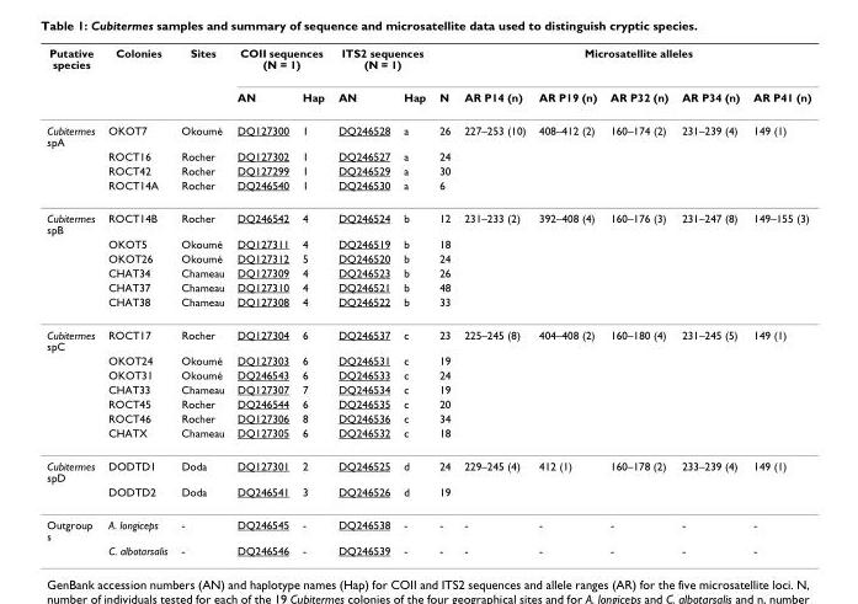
<table><thead><tr><td rowspan="2">Putative species</td><td rowspan="2">Colonies</td><td rowspan="2">Sites</td><td colspan="2">COII sequences (N = 1)</td><td colspan="2">ITS2 sequences (N = 1)</td><td rowspan="2">N</td><td colspan="5">Microsatellite alleles</td></tr><tr><td>AN</td><td>Hap</td><td>AN</td><td>Hap</td><td>AR P14 (n)</td><td>AR P19 (n)</td><td>AR P32 (n)</td><td>AR P34 (n)</td><td>AR P41 (n)</td></tr></thead><tbody><tr><td rowspan="4">Cubitermes spA</td><td>OKOT7</td><td>Okoumé</td><td>DQ127300</td><td>1</td><td>DQ246528</td><td>a</td><td>26</td><td>227–253 (10)</td><td>408–412 (2)</td><td>160–174 (2)</td><td>231–239 (4)</td><td>149 (1)</td></tr><tr><td>ROCT16</td><td>Rocher</td><td>DQ127302</td><td>1</td><td>DQ246527</td><td>a</td><td>24</td><td></td><td></td><td></td><td></td><td></td></tr><tr><td>ROCT42</td><td>Rocher</td><td>DQ127299</td><td>1</td><td>DQ246529</td><td>a</td><td>30</td><td></td><td></td><td></td><td></td><td></td></tr><tr><td>ROCT14A</td><td>Rocher</td><td>DQ246540</td><td>1</td><td>DQ246530</td><td>a</td><td>6</td><td></td><td></td><td></td><td></td><td></td></tr><tr><td rowspan="6">Cubitermes spB</td><td>ROCT14B</td><td>Rocher</td><td>DQ246542</td><td>4</td><td>DQ246524</td><td>b</td><td>12</td><td>231–233 (2)</td><td>392–408 (4)</td><td>160–176 (3)</td><td>231–247 (8)</td><td>149–155 (3)</td></tr><tr><td>OKOT5</td><td>Okoumé</td><td>DQ127311</td><td>4</td><td>DQ246519</td><td>b</td><td>18</td><td></td><td></td><td></td><td></td><td></td></tr><tr><td>OKOT26</td><td>Okoumé</td><td>DQ127312</td><td>5</td><td>DQ246520</td><td>b</td><td>24</td><td></td><td></td><td></td><td></td><td></td></tr><tr><td>CHAT34</td><td>Chameau</td><td>DQ127309</td><td>4</td><td>DQ246523</td><td>b</td><td>26</td><td></td><td></td><td></td><td></td><td></td></tr><tr><td>CHAT37</td><td>Chameau</td><td>DQ127310</td><td>4</td><td>DQ246521</td><td>b</td><td>48</td><td></td><td></td><td></td><td></td><td></td></tr><tr><td>CHAT38</td><td>Chameau</td><td>DQ127308</td><td>4</td><td>DQ246522</td><td>b</td><td>33</td><td></td><td></td><td></td><td></td><td></td></tr><tr><td rowspan="7">Cubitermes spC</td><td>ROCT17</td><td>Rocher</td><td>DQ127304</td><td>6</td><td>DQ246537</td><td>c</td><td>23</td><td>225–245 (8)</td><td>404–408 (2)</td><td>160–180 (4)</td><td>231–245 (5)</td><td>149 (1)</td></tr><tr><td>OKOT24</td><td>Okoumé</td><td>DQ127303</td><td>6</td><td>DQ246531</td><td>c</td><td>19</td><td></td><td></td><td></td><td></td><td></td></tr><tr><td>OKOT31</td><td>Okoumé</td><td>DQ246543</td><td>6</td><td>DQ246533</td><td>c</td><td>24</td><td></td><td></td><td></td><td></td><td></td></tr><tr><td>CHAT33</td><td>Chameau</td><td>DQ127307</td><td>7</td><td>DQ246534</td><td>c</td><td>19</td><td></td><td></td><td></td><td></td><td></td></tr><tr><td>ROCT45</td><td>Rocher</td><td>DQ246544</td><td>6</td><td>DQ246535</td><td>c</td><td>20</td><td></td><td></td><td></td><td></td><td></td></tr><tr><td>ROCT46</td><td>Rocher</td><td>DQ127306</td><td>8</td><td>DQ246536</td><td>c</td><td>34</td><td></td><td></td><td></td><td></td><td></td></tr><tr><td>CHATX</td><td>Chameau</td><td>DQ127305</td><td>6</td><td>DQ246532</td><td>c</td><td>18</td><td></td><td></td><td></td><td></td><td></td></tr><tr><td rowspan="2">Cubitermes spD</td><td>DODTD1</td><td>Doda</td><td>DQ127301</td><td>2</td><td>DQ246525</td><td>d</td><td>24</td><td>229–245 (4)</td><td>412 (1)</td><td>160–178 (2)</td><td>233–239 (4)</td><td>149 (1)</td></tr><tr><td>DODTD2</td><td>Doda</td><td>DQ246541</td><td>3</td><td>DQ246526</td><td>d</td><td>19</td><td></td><td></td><td></td><td></td><td></td></tr><tr><td rowspan="2">Outgroup s</td><td>A. longiceps</td><td>-</td><td>DQ246545</td><td>-</td><td>DQ246538</td><td>-</td><td>-</td><td>-</td><td>-</td><td>-</td><td>-</td><td>-</td></tr><tr><td>C. albotarsalis</td><td>-</td><td>DQ246546</td><td>-</td><td>DQ246539</td><td>-</td><td>-</td><td>-</td><td>-</td><td>-</td><td>-</td><td>-</td></tr></tbody></table>